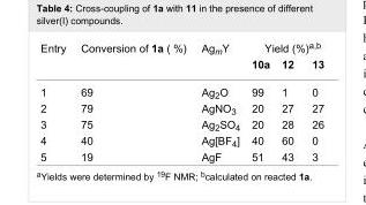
<table><tbody><tr><td rowspan="2">Entry</td><td rowspan="2">Conversion of 1a ( %)</td><td rowspan="2">Ag<sub>m</sub>Y</td><td colspan="3">Yield (%)<sup>a,b</sup></td></tr><tr><td>10a</td><td>12</td><td>13</td></tr><tr><td>1</td><td>69</td><td>Ag<sub>2</sub>O</td><td>99</td><td>1</td><td>0</td></tr><tr><td>2</td><td>79</td><td>AgNO<sub>3</sub></td><td>20</td><td>27</td><td>27</td></tr><tr><td>3</td><td>75</td><td>Ag<sub>2</sub>SO<sub>4</sub></td><td>20</td><td>28</td><td>26</td></tr><tr><td>4</td><td>40</td><td>Ag[BF<sub>4</sub>]</td><td>40</td><td>60</td><td>0</td></tr><tr><td>5</td><td>19</td><td>AgF</td><td>51</td><td>43</td><td>3</td></tr></tbody></table>